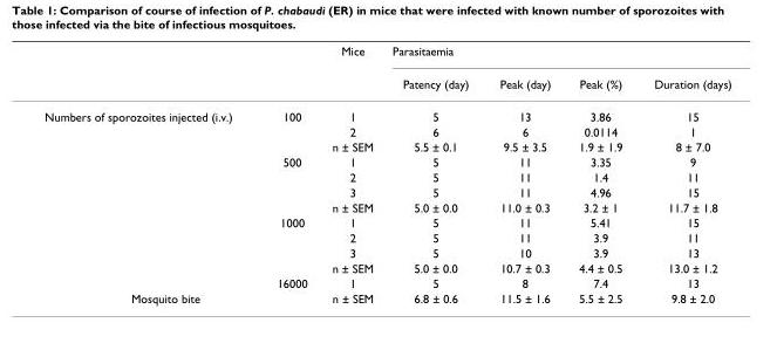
<table><thead><tr><td rowspan="2"></td><td rowspan="2"></td><td rowspan="2">Mice</td><td colspan="4">Parasitaemia</td></tr><tr><td>Patency (day)</td><td>Peak (day)</td><td>Peak (%)</td><td>Duration (days)</td></tr></thead><tbody><tr><td rowspan="12">Numbers of sporozoites injected (i.v.)</td><td>100</td><td>1</td><td>5</td><td>13</td><td>3.86</td><td>15</td></tr><tr><td></td><td>2</td><td>6</td><td>6</td><td>0.0114</td><td>1</td></tr><tr><td></td><td>n ± SEM</td><td>5.5 ± 0.1</td><td>9.5 ± 3.5</td><td>1.9 ± 1.9</td><td>8 ± 7.0</td></tr><tr><td>500</td><td>1</td><td>5</td><td>11</td><td>3.35</td><td>9</td></tr><tr><td></td><td>2</td><td>5</td><td>11</td><td>1.4</td><td>11</td></tr><tr><td></td><td>3</td><td>5</td><td>11</td><td>4.96</td><td>15</td></tr><tr><td></td><td>n ± SEM</td><td>5.0 ± 0.0</td><td>11.0 ± 0.3</td><td>3.2 ± 1</td><td>11.7 ± 1.8</td></tr><tr><td>1000</td><td>1</td><td>5</td><td>11</td><td>5.41</td><td>15</td></tr><tr><td></td><td>2</td><td>5</td><td>11</td><td>3.9</td><td>11</td></tr><tr><td></td><td>3</td><td>5</td><td>10</td><td>3.9</td><td>13</td></tr><tr><td></td><td>n ± SEM</td><td>5.0 ± 0.0</td><td>10.7 ± 0.3</td><td>4.4 ± 0.5</td><td>13.0 ± 1.2</td></tr><tr><td>16000</td><td>1</td><td>5</td><td>8</td><td>7.4</td><td>13</td></tr><tr><td colspan="2">Mosquito bite</td><td>n ± SEM</td><td>6.8 ± 0.6</td><td>11.5 ± 1.6</td><td>5.5 ± 2.5</td><td>9.8 ± 2.0</td></tr></tbody></table>